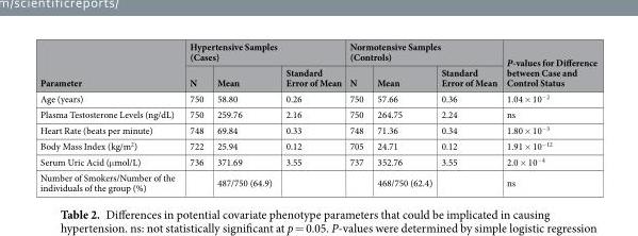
<table><thead><tr><td rowspan="2">Parameter</td><td colspan="3">Hypertensive Samples (Cases)</td><td colspan="3">Normotensive Samples (Controls)</td><td rowspan="2">P-values for Difference between Case and Control Status</td></tr><tr><td>N</td><td>Mean</td><td>Standard Error of Mean</td><td>N</td><td>Mean</td><td>Standard Error of Mean</td></tr></thead><tbody><tr><td>Age (years)</td><td>750</td><td>58.80</td><td>0.26</td><td>750</td><td>57.66</td><td>0.36</td><td>1.04 × 10<sup>−2</sup></td></tr><tr><td>Plasma Testosterone Levels (ng/dL)</td><td>750</td><td>259.76</td><td>2.16</td><td>750</td><td>264.75</td><td>2.24</td><td>ns</td></tr><tr><td>Heart Rate (beats per minute)</td><td>748</td><td>69.84</td><td>0.33</td><td>748</td><td>71.36</td><td>0.34</td><td>1.80 × 10<sup>−3</sup></td></tr><tr><td>Body Mass Index (kg/m<sup>2</sup>)</td><td>722</td><td>25.94</td><td>0.12</td><td>705</td><td>24.71</td><td>0.12</td><td>1.91 × 10<sup>−12</sup></td></tr><tr><td>Serum Uric Acid (μmol/L)</td><td>736</td><td>371.69</td><td>3.55</td><td>737</td><td>352.76</td><td>3.55</td><td>2.0 × 10<sup>−4</sup></td></tr><tr><td>Number of Smokers/Number of the individuals of the group (%)</td><td></td><td>487/750 (64.9)</td><td></td><td></td><td>468/750 (62.4)</td><td></td><td>ns</td></tr></tbody></table>